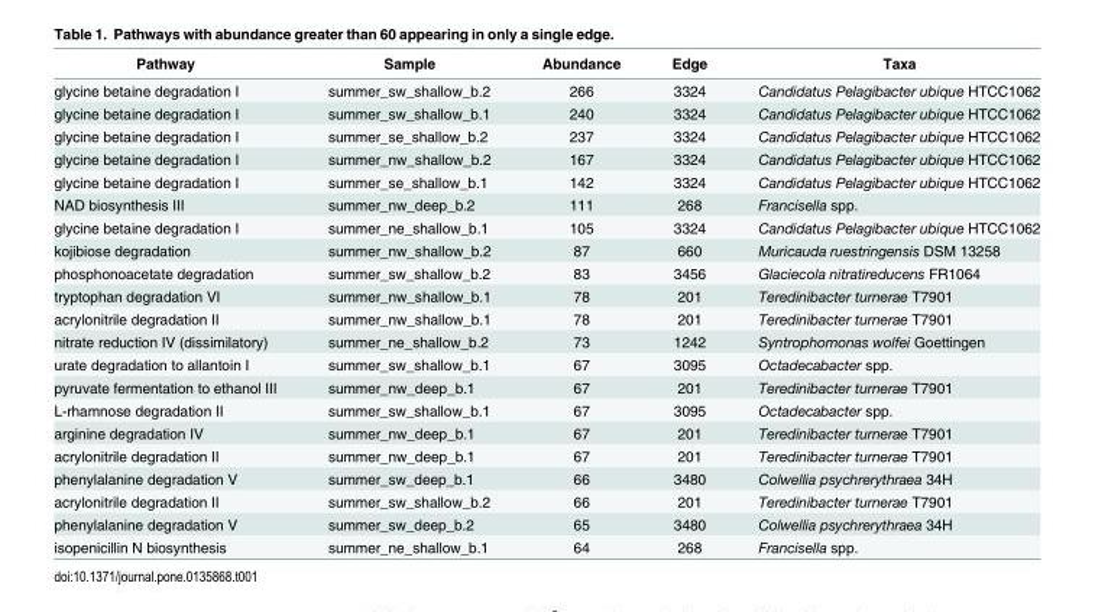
<table><thead><tr><td>Pathway</td><td>Sample</td><td>Abundance</td><td>Edge</td><td>Taxa</td></tr></thead><tbody><tr><td>glycine betaine degradation I</td><td>summer_sw_shallow_b.2</td><td>266</td><td>3324</td><td>Candidatus Pelagibacter ubique HTCC1062</td></tr><tr><td>glycine betaine degradation I</td><td>summer_sw_shallow_b.1</td><td>240</td><td>3324</td><td>Candidatus Pelagibacter ubique HTCC1062</td></tr><tr><td>glycine betaine degradation I</td><td>summer_se_shallow_b.2</td><td>237</td><td>3324</td><td>Candidatus Pelagibacter ubique HTCC1062</td></tr><tr><td>glycine betaine degradation I</td><td>summer_nw_shallow_b.2</td><td>167</td><td>3324</td><td>Candidatus Pelagibacter ubique HTCC1062</td></tr><tr><td>glycine betaine degradation I</td><td>summer_se_shallow_b.1</td><td>142</td><td>3324</td><td>Candidatus Pelagibacter ubique HTCC1062</td></tr><tr><td>NAD biosynthesis III</td><td>summer_nw_deep_b.2</td><td>111</td><td>268</td><td>Francisella spp.</td></tr><tr><td>glycine betaine degradation I</td><td>summer_ne_shallow_b.1</td><td>105</td><td>3324</td><td>Candidatus Pelagibacter ubique HTCC1062</td></tr><tr><td>kojibiose degradation</td><td>summer_nw_shallow_b.2</td><td>87</td><td>660</td><td>Muricauda ruestringensis DSM 13258</td></tr><tr><td>phosphonoacetate degradation</td><td>summer_sw_shallow_b.2</td><td>83</td><td>3456</td><td>Glaciecola nitratireducens FR1064</td></tr><tr><td>tryptophan degradation VI</td><td>summer_nw_shallow_b.1</td><td>78</td><td>201</td><td>Teredinibacter turnerae T7901</td></tr><tr><td>acrylonitrile degradation II</td><td>summer_nw_shallow_b.1</td><td>78</td><td>201</td><td>Teredinibacter turnerae T7901</td></tr><tr><td>nitrate reduction IV (dissimilatory)</td><td>summer_ne_shallow_b.2</td><td>73</td><td>1242</td><td>Syntrophomonas wolfei Goettingen</td></tr><tr><td>urate degradation to allantoin I</td><td>summer_sw_shallow_b.1</td><td>67</td><td>3095</td><td>Octadecabacter spp.</td></tr><tr><td>pyruvate fermentation to ethanol III</td><td>summer_nw_deep_b.1</td><td>67</td><td>201</td><td>Teredinibacter turnerae T7901</td></tr><tr><td>L-rhamnose degradation II</td><td>summer_sw_shallow_b.1</td><td>67</td><td>3095</td><td>Octadecabacter spp.</td></tr><tr><td>arginine degradation IV</td><td>summer_nw_deep_b.1</td><td>67</td><td>201</td><td>Teredinibacter turnerae T7901</td></tr><tr><td>acrylonitrile degradation II</td><td>summer_nw_deep_b.1</td><td>67</td><td>201</td><td>Teredinibacter turnerae T7901</td></tr><tr><td>phenylalanine degradation V</td><td>summer_sw_deep_b.1</td><td>66</td><td>3480</td><td>Colwellia psychrerythraea 34H</td></tr><tr><td>acrylonitrile degradation II</td><td>summer_sw_shallow_b.2</td><td>66</td><td>201</td><td>Teredinibacter turnerae T7901</td></tr><tr><td>phenylalanine degradation V</td><td>summer_sw_deep_b.2</td><td>65</td><td>3480</td><td>Colwellia psychrerythraea 34H</td></tr><tr><td>isopenicillin N biosynthesis</td><td>summer_ne_shallow_b.1</td><td>64</td><td>268</td><td>Francisella spp.</td></tr></tbody></table>